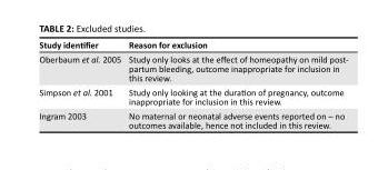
<table><thead><tr><td>Study identifier</td><td>Reason for exclusion</td></tr></thead><tbody><tr><td>Oberbaum et al. 2005</td><td>Study only looks at the effect of homeopathy on mild post- partum bleeding, outcome inappropriate for inclusion in this review.</td></tr><tr><td>Simpson et al. 2001</td><td>Study only looking at the duration of pregnancy, outcome inappropriate for inclusion in this review.</td></tr><tr><td>Ingram 2003</td><td>No maternal or neonatal adverse events reported on – no outcomes available, hence not included in this review.</td></tr></tbody></table>